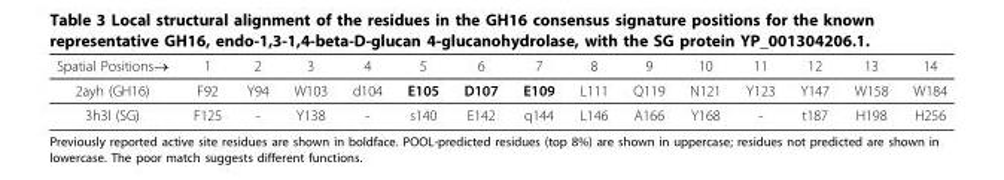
<table><thead><tr><td>Spatial Positions→</td><td>1</td><td>2</td><td>3</td><td>4</td><td>5</td><td>6</td><td>7</td><td>8</td><td>9</td><td>10</td><td>11</td><td>12</td><td>13</td><td>14</td></tr></thead><tbody><tr><td>2ayh (GH16)</td><td>F92</td><td>Y94</td><td>W103</td><td>d104</td><td>E105</td><td>D107</td><td>E109</td><td>L111</td><td>Q119</td><td>N121</td><td>Y123</td><td>Y147</td><td>W158</td><td>W184</td></tr><tr><td>3h3l (SG)</td><td>F125</td><td>-</td><td>Y138</td><td>-</td><td>s140</td><td>E142</td><td>q144</td><td>L146</td><td>A166</td><td>Y168</td><td>-</td><td>t187</td><td>H198</td><td>H256</td></tr></tbody></table>